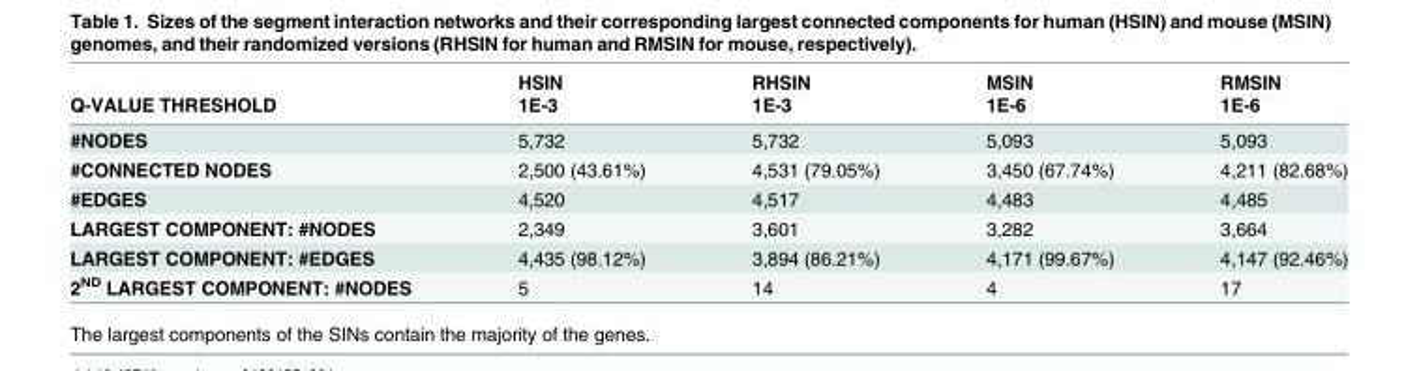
<table><thead><tr><td rowspan="2">Q-VALUE THRESHOLD</td><td rowspan="2">HSIN 1E-3</td><td rowspan="2">RHSIN 1E-3</td><td rowspan="2">MSIN 1E-6</td><td rowspan="2">RMSIN 1E-6</td></tr><tr></tr></thead><tbody><tr><td>#NODES</td><td>5,732</td><td>5,732</td><td>5,093</td><td>5,093</td></tr><tr><td>#CONNECTED NODES</td><td>2,500 (43.61%)</td><td>4,531 (79.05%)</td><td>3,450 (67.74%)</td><td>4,211 (82.68%)</td></tr><tr><td>#EDGES</td><td>4,520</td><td>4,517</td><td>4,483</td><td>4,485</td></tr><tr><td>LARGEST COMPONENT: #NODES</td><td>2,349</td><td>3,601</td><td>3,282</td><td>3,664</td></tr><tr><td>LARGEST COMPONENT: #EDGES</td><td>4,435 (98.12%)</td><td>3,894 (86.21%)</td><td>4,171 (99.67%)</td><td>4,147 (92.46%)</td></tr><tr><td>2<sup>ND</sup> LARGEST COMPONENT: #NODES</td><td>5</td><td>14</td><td>4</td><td>17</td></tr></tbody></table>